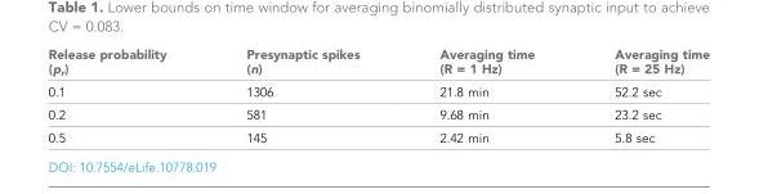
<table><thead><tr><td>Release probability (p<sub>r</sub>)</td><td>Presynaptic spikes (n)</td><td>Averaging time (R = 1 Hz)</td><td>Averaging time (R = 25 Hz)</td></tr></thead><tbody><tr><td>0.1</td><td>1306</td><td>21.8 min</td><td>52.2 sec</td></tr><tr><td>0.2</td><td>581</td><td>9.68 min</td><td>23.2 sec</td></tr><tr><td>0.5</td><td>145</td><td>2.42 min</td><td>5.8 sec</td></tr></tbody></table>